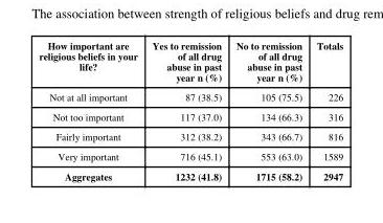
<table><thead><tr><td>How important are religious beliefs in your life?</td><td>Yes to remission of all drug abuse in past year n (%)</td><td>No to remission of all drug abuse in past year n (%)</td><td>Totals</td></tr></thead><tbody><tr><td>Not at all important</td><td>87 (38.5)</td><td>105 (75.5)</td><td>226</td></tr><tr><td>Not too important</td><td>117 (37.0)</td><td>134 (66.3)</td><td>316</td></tr><tr><td>Fairly important</td><td>312 (38.2)</td><td>343 (66.7)</td><td>816</td></tr><tr><td>Very important</td><td>716 (45.1)</td><td>553 (63.0)</td><td>1589</td></tr><tr><td>Aggregates</td><td>1232 (41.8)</td><td>1715 (58.2)</td><td>2947</td></tr></tbody></table>